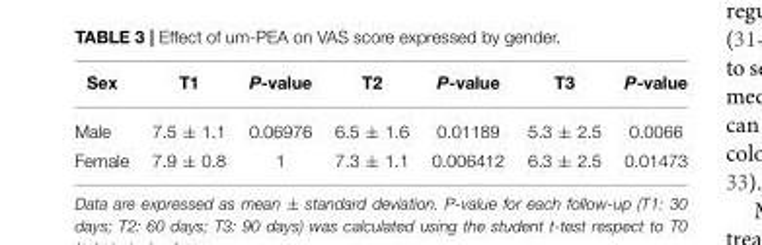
<table><thead><tr><td>Sex</td><td>T1</td><td>P-value</td><td>T2</td><td>P-value</td><td>T3</td><td>P-value</td></tr></thead><tbody><tr><td>Male</td><td>7.5 ± 1.1</td><td>0.06976</td><td>6.5 ± 1.6</td><td>0.01189</td><td>5.3 ± 2.5</td><td>0.0066</td></tr><tr><td>Female</td><td>7.9 ± 0.8</td><td>1</td><td>7.3 ± 1.1</td><td>0.006412</td><td>6.3 ± 2.5</td><td>0.01473</td></tr></tbody></table>